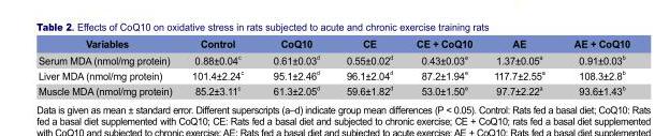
<table><thead><tr><td>Variables</td><td>Control</td><td>CoQ10</td><td>CE</td><td>CE + CoQ10</td><td>AE</td><td>AE + CoQ10</td></tr></thead><tbody><tr><td>Serum MDA (nmol/mg protein)</td><td>0.88±0.04 <sup>c</sup></td><td>0.61±0.03 <sup>d</sup></td><td>0.55±0.02 <sup>d</sup></td><td>0.43±0.03 <sup>e</sup></td><td>1.37±0.05 <sup>a</sup></td><td>0.91±0.03 <sup>b</sup></td></tr><tr><td>Liver MDA (nmol/mg protein)</td><td>101.4±2.24 <sup>c</sup></td><td>95.1±2.46 <sup>d</sup></td><td>96.1±2.04 <sup>d</sup></td><td>87.2±1.94 <sup>e</sup></td><td>117.7±2.55 <sup>a</sup></td><td>108.3±2.8 <sup>b</sup></td></tr><tr><td>Muscle MDA (nmol/mg protein)</td><td>85.2±3.11 <sup>c</sup></td><td>61.3±2.05 <sup>d</sup></td><td>59.6±1.82 <sup>d</sup></td><td>53.0±1.50 <sup>e</sup></td><td>97.7±2.22 <sup>a</sup></td><td>93.6±1.43 <sup>b</sup></td></tr></tbody></table>